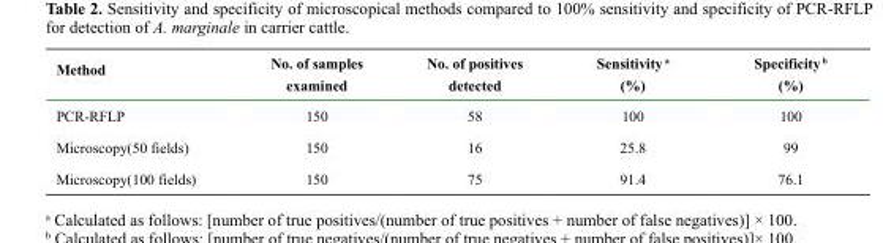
<table><thead><tr><td>Method</td><td>No. of samples examined</td><td>No. of positives detected</td><td>Sensitivity <sup>a</sup> (%)</td><td>Specificity <sup>b</sup> (%)</td></tr></thead><tbody><tr><td>PCR-RFLP</td><td>150</td><td>58</td><td>100</td><td>100</td></tr><tr><td>Microscopy(50 fields)</td><td>150</td><td>16</td><td>25.8</td><td>99</td></tr><tr><td>Microscopy(100 fields)</td><td>150</td><td>75</td><td>91.4</td><td>76.1</td></tr></tbody></table>